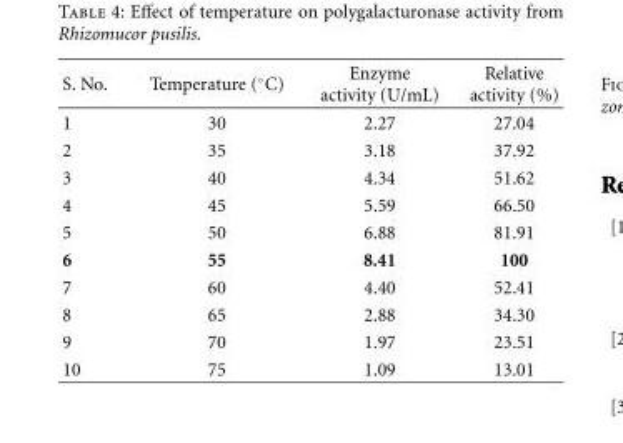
<table><thead><tr><td>S. No.</td><td>Temperature (◦C)</td><td>Enzyme activity (U/mL)</td><td>Relative activity (%)</td></tr></thead><tbody><tr><td>1</td><td>30</td><td>2.27</td><td>27.04</td></tr><tr><td>2</td><td>35</td><td>3.18</td><td>37.92</td></tr><tr><td>3</td><td>40</td><td>4.34</td><td>51.62</td></tr><tr><td>4</td><td>45</td><td>5.59</td><td>66.50</td></tr><tr><td>5</td><td>50</td><td>6.88</td><td>81.91</td></tr><tr><td>6</td><td>55</td><td>8.41</td><td>100</td></tr><tr><td>7</td><td>60</td><td>4.40</td><td>52.41</td></tr><tr><td>8</td><td>65</td><td>2.88</td><td>34.30</td></tr><tr><td>9</td><td>70</td><td>1.97</td><td>23.51</td></tr><tr><td>10</td><td>75</td><td>1.09</td><td>13.01</td></tr></tbody></table>